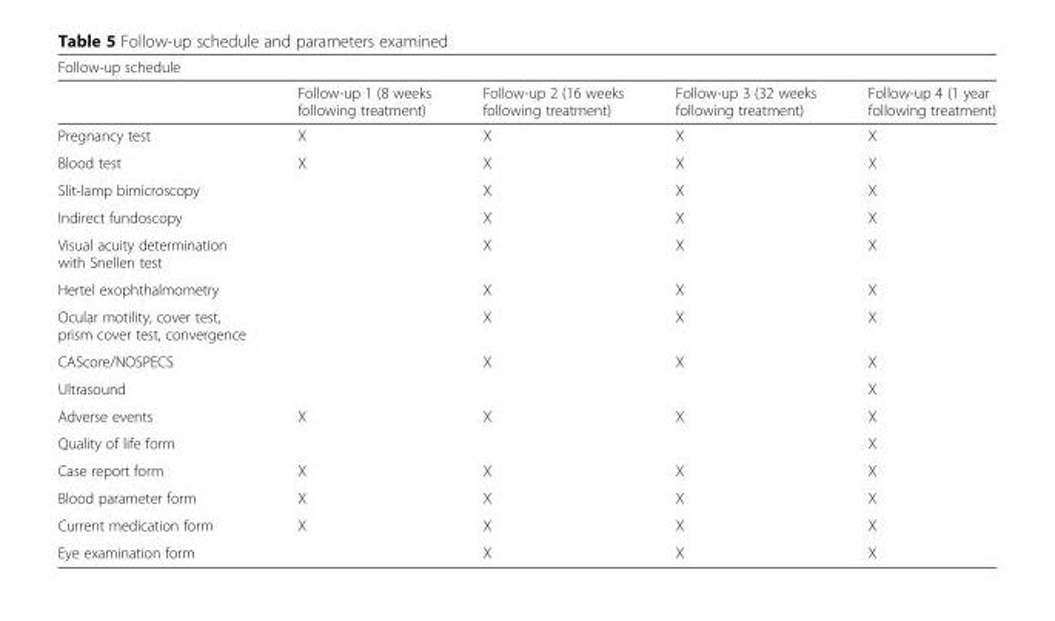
<table><thead><tr><td colspan="5">Follow-up schedule</td></tr><tr><td></td><td>Follow-up 1 (8 weeks following treatment)</td><td>Follow-up 2 (16 weeks following treatment)</td><td>Follow-up 3 (32 weeks following treatment)</td><td>Follow-up 4 (1 year following treatment)</td></tr></thead><tbody><tr><td>Pregnancy test</td><td>X</td><td>X</td><td>X</td><td>X</td></tr><tr><td>Blood test</td><td>X</td><td>X</td><td>X</td><td>X</td></tr><tr><td>Slit-lamp bimicroscopy</td><td></td><td>X</td><td>X</td><td>X</td></tr><tr><td>Indirect fundoscopy</td><td></td><td>X</td><td>X</td><td>X</td></tr><tr><td>Visual acuity determination with Snellen test</td><td></td><td>X</td><td>X</td><td>X</td></tr><tr><td>Hertel exophthalmometry</td><td></td><td>X</td><td>X</td><td>X</td></tr><tr><td>Ocular motility, cover test, prism cover test, convergence</td><td></td><td>X</td><td>X</td><td>X</td></tr><tr><td>CAScore/NOSPECS</td><td></td><td>X</td><td>X</td><td>X</td></tr><tr><td>Ultrasound</td><td></td><td></td><td></td><td>X</td></tr><tr><td>Adverse events</td><td>X</td><td>X</td><td>X</td><td>X</td></tr><tr><td>Quality of life form</td><td></td><td></td><td></td><td>X</td></tr><tr><td>Case report form</td><td>X</td><td>X</td><td>X</td><td>X</td></tr><tr><td>Blood parameter form</td><td>X</td><td>X</td><td>X</td><td>X</td></tr><tr><td>Current medication form</td><td>X</td><td>X</td><td>X</td><td>X</td></tr><tr><td>Eye examination form</td><td></td><td>X</td><td>X</td><td>X</td></tr></tbody></table>